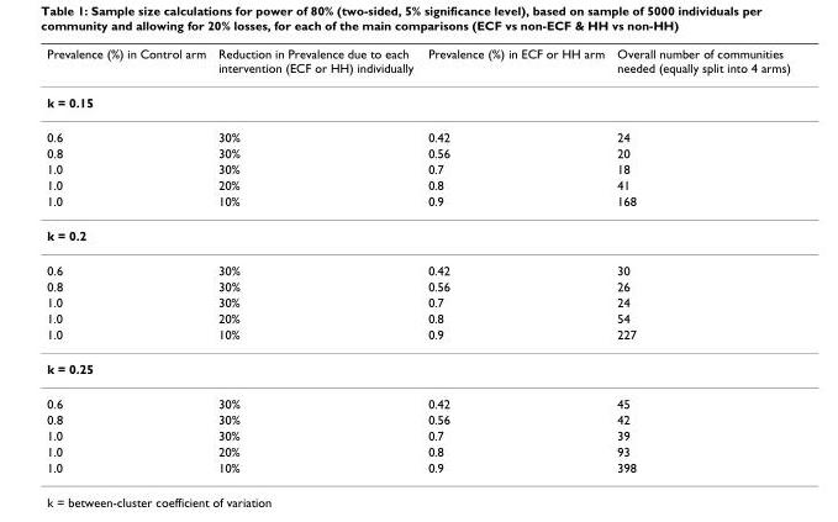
<table><thead><tr><td>Prevalence (%) in Control arm</td><td>Reduction in Prevalence due to each intervention (ECF or HH) individually</td><td>Prevalence (%) in ECF or HH arm</td><td>Overall number of communities needed (equally split into 4 arms)</td></tr></thead><tbody><tr><td colspan="4">k = 0.15</td></tr><tr><td>0.6</td><td>30%</td><td>0.42</td><td>24</td></tr><tr><td>0.8</td><td>30%</td><td>0.56</td><td>20</td></tr><tr><td>1.0</td><td>30%</td><td>0.7</td><td>18</td></tr><tr><td>1.0</td><td>20%</td><td>0.8</td><td>41</td></tr><tr><td>1.0</td><td>10%</td><td>0.9</td><td>168</td></tr><tr><td colspan="4">k = 0.2</td></tr><tr><td>0.6</td><td>30%</td><td>0.42</td><td>30</td></tr><tr><td>0.8</td><td>30%</td><td>0.56</td><td>26</td></tr><tr><td>1.0</td><td>30%</td><td>0.7</td><td>24</td></tr><tr><td>1.0</td><td>20%</td><td>0.8</td><td>54</td></tr><tr><td>1.0</td><td>10%</td><td>0.9</td><td>227</td></tr><tr><td colspan="4">k = 0.25</td></tr><tr><td>0.6</td><td>30%</td><td>0.42</td><td>45</td></tr><tr><td>0.8</td><td>30%</td><td>0.56</td><td>42</td></tr><tr><td>1.0</td><td>30%</td><td>0.7</td><td>39</td></tr><tr><td>1.0</td><td>20%</td><td>0.8</td><td>93</td></tr><tr><td>1.0</td><td>10%</td><td>0.9</td><td>398</td></tr></tbody></table>